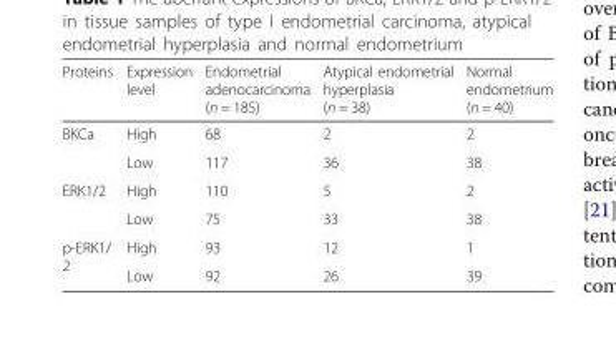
<table><thead><tr><td>Proteins</td><td>Expression level</td><td>Endometrial adenocarcinoma (n = 185)</td><td>Atypical endometrial hyperplasia (n = 38)</td><td>Normal endometrium (n = 40)</td></tr></thead><tbody><tr><td rowspan="2">BKCa</td><td>High</td><td>68</td><td>2</td><td>2</td></tr><tr><td>Low</td><td>117</td><td>36</td><td>38</td></tr><tr><td rowspan="2">ERK1/2</td><td>High</td><td>110</td><td>5</td><td>2</td></tr><tr><td>Low</td><td>75</td><td>33</td><td>38</td></tr><tr><td rowspan="2">p-ERK1/ 2</td><td>High</td><td>93</td><td>12</td><td>1</td></tr><tr><td>Low</td><td>92</td><td>26</td><td>39</td></tr></tbody></table>